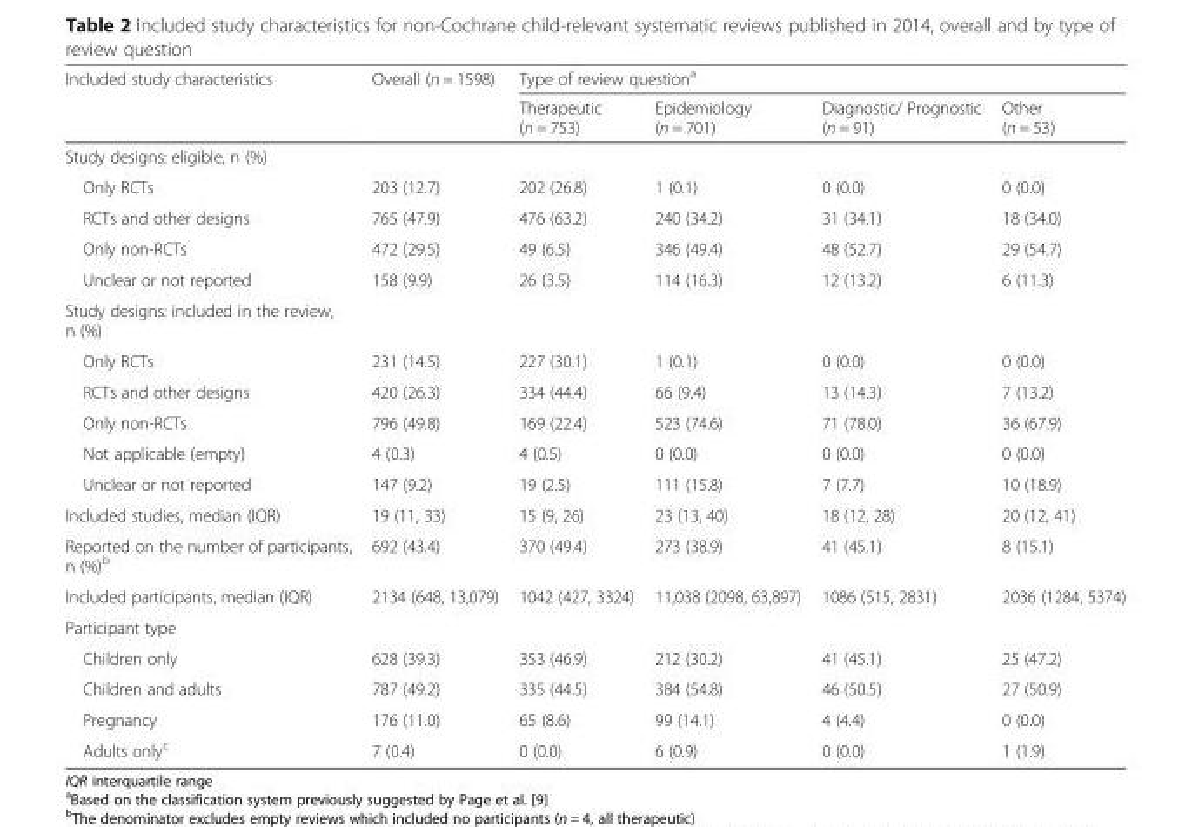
<table><thead><tr><td rowspan="2">Included study characteristics</td><td rowspan="2">Overall (n = 1598)</td><td colspan="4">Type of review question<sup>a</sup></td></tr><tr><td>Therapeutic (n = 753)</td><td>Epidemiology (n = 701)</td><td>Diagnostic/ Prognostic (n = 91)</td><td>Other (n = 53)</td></tr></thead><tbody><tr><td colspan="6">Study designs: eligible, n (%)</td></tr><tr><td>Only RCTs</td><td>203 (12.7)</td><td>202 (26.8)</td><td>1 (0.1)</td><td>0 (0.0)</td><td>0 (0.0)</td></tr><tr><td>RCTs and other designs</td><td>765 (47.9)</td><td>476 (63.2)</td><td>240 (34.2)</td><td>31 (34.1)</td><td>18 (34.0)</td></tr><tr><td>Only non-RCTs</td><td>472 (29.5)</td><td>49 (6.5)</td><td>346 (49.4)</td><td>48 (52.7)</td><td>29 (54.7)</td></tr><tr><td>Unclear or not reported</td><td>158 (9.9)</td><td>26 (3.5)</td><td>114 (16.3)</td><td>12 (13.2)</td><td>6 (11.3)</td></tr><tr><td colspan="6">Study designs: included in the review, n (%)</td></tr><tr><td>Only RCTs</td><td>231 (14.5)</td><td>227 (30.1)</td><td>1 (0.1)</td><td>0 (0.0)</td><td>0 (0.0)</td></tr><tr><td>RCTs and other designs</td><td>420 (26.3)</td><td>334 (44.4)</td><td>66 (9.4)</td><td>13 (14.3)</td><td>7 (13.2)</td></tr><tr><td>Only non-RCTs</td><td>796 (49.8)</td><td>169 (22.4)</td><td>523 (74.6)</td><td>71 (78.0)</td><td>36 (67.9)</td></tr><tr><td>Not applicable (empty)</td><td>4 (0.3)</td><td>4 (0.5)</td><td>0 (0.0)</td><td>0 (0.0)</td><td>0 (0.0)</td></tr><tr><td>Unclear or not reported</td><td>147 (9.2)</td><td>19 (2.5)</td><td>111 (15.8)</td><td>7 (7.7)</td><td>10 (18.9)</td></tr><tr><td>Included studies, median (IQR)</td><td>19 (11, 33)</td><td>15 (9, 26)</td><td>23 (13, 40)</td><td>18 (12, 28)</td><td>20 (12, 41)</td></tr><tr><td>Reported on the number of participants, n (%)<sup>b</sup></td><td>692 (43.4)</td><td>370 (49.4)</td><td>273 (38.9)</td><td>41 (45.1)</td><td>8 (15.1)</td></tr><tr><td>Included participants, median (IQR)</td><td>2134 (648, 13,079)</td><td>1042 (427, 3324)</td><td>11,038 (2098, 63,897)</td><td>1086 (515, 2831)</td><td>2036 (1284, 5374)</td></tr><tr><td colspan="6">Participant type</td></tr><tr><td>Children only</td><td>628 (39.3)</td><td>353 (46.9)</td><td>212 (30.2)</td><td>41 (45.1)</td><td>25 (47.2)</td></tr><tr><td>Children and adults</td><td>787 (49.2)</td><td>335 (44.5)</td><td>384 (54.8)</td><td>46 (50.5)</td><td>27 (50.9)</td></tr><tr><td>Pregnancy</td><td>176 (11.0)</td><td>65 (8.6)</td><td>99 (14.1)</td><td>4 (4.4)</td><td>0 (0.0)</td></tr><tr><td>Adults only<sup>c</sup></td><td>7 (0.4)</td><td>0 (0.0)</td><td>6 (0.9)</td><td>0 (0.0)</td><td>1 (1.9)</td></tr></tbody></table>